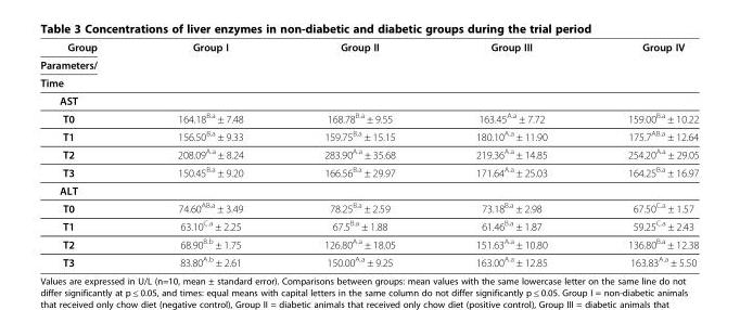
<table><thead><tr><td rowspan="3">Group Parameters/ Time</td><td rowspan="3">Group I</td><td rowspan="3">Group II</td><td rowspan="3">Group III</td><td rowspan="3">Group IV</td></tr><tr></tr><tr></tr></thead><tbody><tr><td colspan="5">AST</td></tr><tr><td>T0</td><td>164.18<sup>B.a</sup> ± 7.48</td><td>168.78<sup>B.a</sup> ± 9.55</td><td>163.45<sup>A.a</sup> ± 7.72</td><td>159.00<sup>B.a</sup> ± 10.22</td></tr><tr><td>T1</td><td>156.50<sup>B.a</sup> ± 9.33</td><td>159.75<sup>B.a</sup> ± 15.15</td><td>180.10<sup>A.a</sup> ± 11.90</td><td>175.7<sup>AB.a</sup> ± 12.64</td></tr><tr><td>T2</td><td>208.09<sup>A.a</sup> ± 8.24</td><td>283.90<sup>A.a</sup> ± 35.68</td><td>219.36<sup>A.a</sup> ± 14.85</td><td>254.20<sup>A.a</sup> ± 29.05</td></tr><tr><td>T3</td><td>150.45<sup>B.a</sup> ± 9.20</td><td>166.56<sup>B.a</sup> ± 29.97</td><td>171.64<sup>A.a</sup> ± 25.03</td><td>164.25<sup>B.a</sup> ± 16.97</td></tr><tr><td colspan="5">ALT</td></tr><tr><td>T0</td><td>74.60<sup>AB.a</sup> ± 3.49</td><td>78.25<sup>B.a</sup> ± 2.59</td><td>73.18<sup>B.a</sup> ± 2.98</td><td>67.50<sup>C.a</sup> ± 1.57</td></tr><tr><td>T1</td><td>63.10<sup>C.a</sup> ± 2.25</td><td>67.5<sup>B.a</sup> ± 1.88</td><td>61.46<sup>B.a</sup> ± 1.87</td><td>59.25<sup>C.a</sup> ± 2.43</td></tr><tr><td>T2</td><td>68.90<sup>B.b</sup> ± 1.75</td><td>126.80<sup>A.a</sup> ± 18.05</td><td>151.63<sup>A.a</sup> ± 10.80</td><td>136.80<sup>B.a</sup> ± 12.38</td></tr><tr><td>T3</td><td>83.80<sup>A.b</sup> ± 2.61</td><td>150.00<sup>A.a</sup> ± 9.25</td><td>163.00<sup>A.a</sup> ± 12.85</td><td>163.83<sup>A.a</sup> ± 5.50</td></tr></tbody></table>